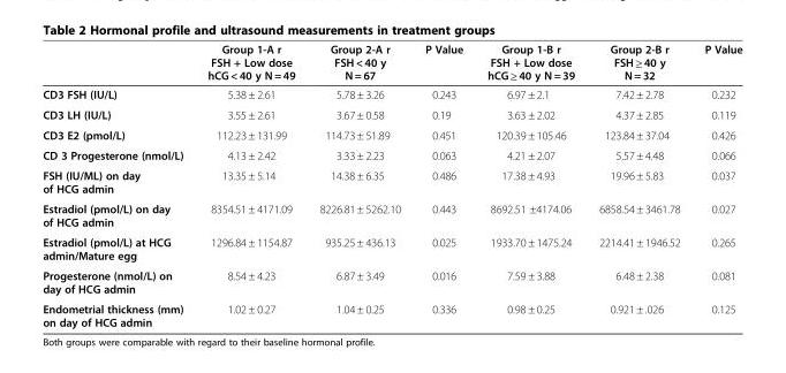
<table><thead><tr><td></td><td>Group 1-A r FSH + Low dose hCG &lt; 40 y N = 49</td><td>Group 2-A r FSH &lt; 40 y N = 67</td><td>P Value</td><td>Group 1-B r FSH + Low dose hCG ≥ 40 y N = 39</td><td>Group 2-B r FSH ≥ 40 y N = 32</td><td>P Value</td></tr></thead><tbody><tr><td>CD3 FSH (IU/L)</td><td>5.38 ± 2.61</td><td>5.78 ± 3.26</td><td>0.243</td><td>6.97 ± 2.1</td><td>7.42 ± 2.78</td><td>0.232</td></tr><tr><td>CD3 LH (IU/L)</td><td>3.55 ± 2.61</td><td>3.67 ± 0.58</td><td>0.19</td><td>3.63 ± 2.02</td><td>4.37 ± 2.85</td><td>0.119</td></tr><tr><td>CD3 E2 (pmol/L)</td><td>112.23 ± 131.99</td><td>114.73 ± 51.89</td><td>0.451</td><td>120.39 ± 105.46</td><td>123.84 ± 37.04</td><td>0.426</td></tr><tr><td>CD 3 Progesterone (nmol/L)</td><td>4.13 ± 2.42</td><td>3.33 ± 2.23</td><td>0.063</td><td>4.21 ± 2.07</td><td>5.57 ± 4.48</td><td>0.066</td></tr><tr><td>FSH (IU/ML) on day of HCG admin</td><td>13.35 ± 5.14</td><td>14.38 ± 6.35</td><td>0.486</td><td>17.38 ± 4.93</td><td>19.96 ± 5.83</td><td>0.037</td></tr><tr><td>Estradiol (pmol/L) on day of HCG admin</td><td>8354.51 ± 4171.09</td><td>8226.81 ± 5262.10</td><td>0.443</td><td>8692.51 ±4174.06</td><td>6858.54 ± 3461.78</td><td>0.027</td></tr><tr><td>Estradiol (pmol/L) at HCG admin/Mature egg</td><td>1296.84 ± 1154.87</td><td>935.25 ± 436.13</td><td>0.025</td><td>1933.70 ± 1475.24</td><td>2214.41 ± 1946.52</td><td>0.265</td></tr><tr><td>Progesterone (nmol/L) on day of HCG admin</td><td>8.54 ± 4.23</td><td>6.87 ± 3.49</td><td>0.016</td><td>7.59 ± 3.88</td><td>6.48 ± 2.38</td><td>0.081</td></tr><tr><td>Endometrial thickness (mm) on day of HCG admin</td><td>1.02 ± 0.27</td><td>1.04 ± 0.25</td><td>0.336</td><td>0.98 ± 0.25</td><td>0.921 ± .026</td><td>0.125</td></tr></tbody></table>